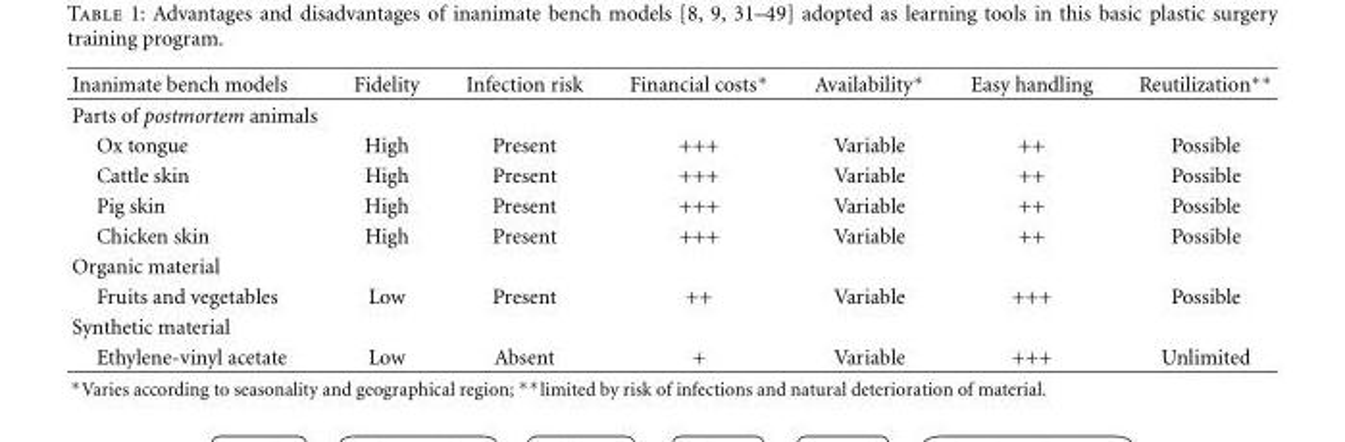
<table><thead><tr><td>Inanimate bench models</td><td>Fidelity</td><td>Infection risk</td><td>Financial costs∗</td><td>Availability∗</td><td>Easy handling</td><td>Reutilization∗∗</td></tr></thead><tbody><tr><td colspan="7">Parts of postmortem animals</td></tr><tr><td>Ox tongue</td><td>High</td><td>Present</td><td>+++</td><td>Variable</td><td>++</td><td>Possible</td></tr><tr><td>Cattle skin</td><td>High</td><td>Present</td><td>+++</td><td>Variable</td><td>++</td><td>Possible</td></tr><tr><td>Pig skin</td><td>High</td><td>Present</td><td>+++</td><td>Variable</td><td>++</td><td>Possible</td></tr><tr><td>Chicken skin</td><td>High</td><td>Present</td><td>+++</td><td>Variable</td><td>++</td><td>Possible</td></tr><tr><td colspan="7">Organic material</td></tr><tr><td>Fruits and vegetables</td><td>Low</td><td>Present</td><td>++</td><td>Variable</td><td>+++</td><td>Possible</td></tr><tr><td colspan="7">Synthetic material</td></tr><tr><td>Ethylene-vinyl acetate</td><td>Low</td><td>Absent</td><td>+</td><td>Variable</td><td>+++</td><td>Unlimited</td></tr></tbody></table>